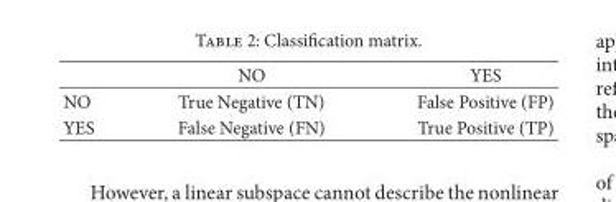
<table><thead><tr><td></td><td>NO</td><td>YES</td></tr></thead><tbody><tr><td>NO</td><td>True Negative (TN)</td><td>False Positive (FP)</td></tr><tr><td>YES</td><td>False Negative (FN)</td><td>True Positive (TP)</td></tr></tbody></table>